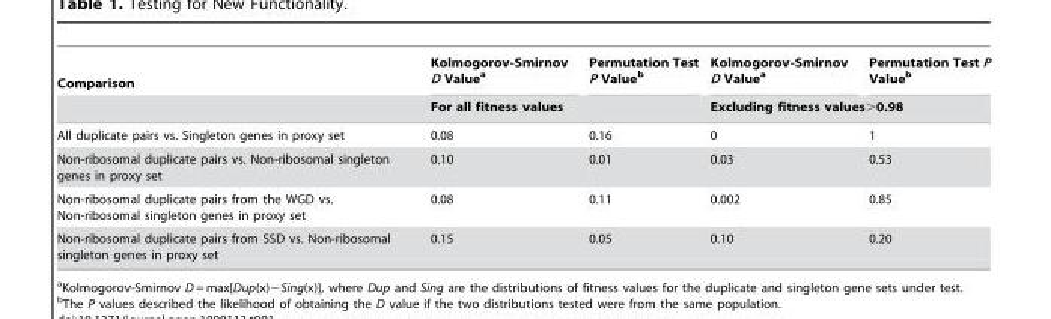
<table><thead><tr><td rowspan="2">Comparison</td><td>Kolmogorov-Smirnov D Value<sup>a</sup></td><td>Permutation Test P Value<sup>b</sup></td><td>Kolmogorov-Smirnov D Value<sup>a</sup></td><td>Permutation Test P Value<sup>b</sup></td></tr><tr><td colspan="2">For all fitness values</td><td colspan="2">Excluding fitness values&gt;0.98</td></tr></thead><tbody><tr><td>All duplicate pairs vs. Singleton genes in proxy set</td><td>0.08</td><td>0.16</td><td>0</td><td>1</td></tr><tr><td>Non-ribosomal duplicate pairs vs. Non-ribosomal singleton genes in proxy set</td><td>0.10</td><td>0.01</td><td>0.03</td><td>0.53</td></tr><tr><td>Non-ribosomal duplicate pairs from the WGD vs. Non-ribosomal singleton genes in proxy set</td><td>0.08</td><td>0.11</td><td>0.002</td><td>0.85</td></tr><tr><td>Non-ribosomal duplicate pairs from SSD vs. Non-ribosomal singleton genes in proxy set</td><td>0.15</td><td>0.05</td><td>0.10</td><td>0.20</td></tr></tbody></table>